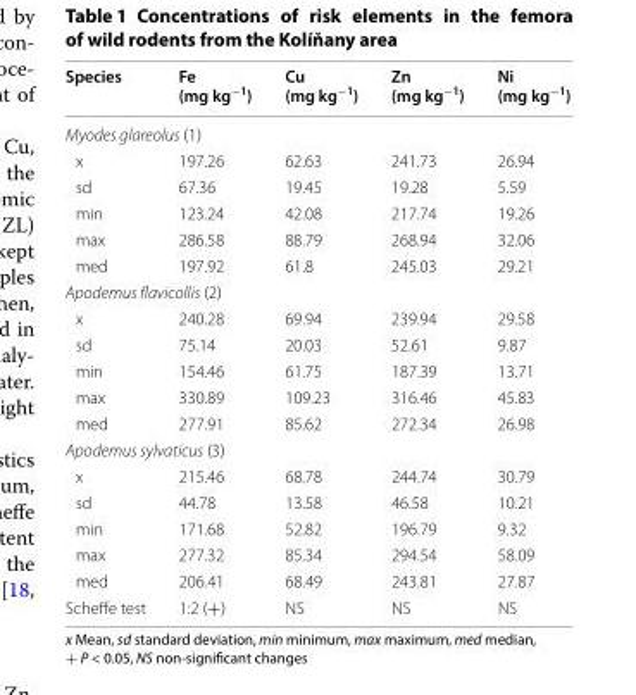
<table><thead><tr><td>Species</td><td>Fe (mg kg<sup>−1</sup>)</td><td>Cu (mg kg<sup>−1</sup>)</td><td>Zn (mg kg<sup>−1</sup>)</td><td>Ni (mg kg<sup>−1</sup>)</td></tr></thead><tbody><tr><td colspan="5">Myodes glareolus (1)</td></tr><tr><td>x</td><td>197.26</td><td>62.63</td><td>241.73</td><td>26.94</td></tr><tr><td>sd</td><td>67.36</td><td>19.45</td><td>19.28</td><td>5.59</td></tr><tr><td>min</td><td>123.24</td><td>42.08</td><td>217.74</td><td>19.26</td></tr><tr><td>max</td><td>286.58</td><td>88.79</td><td>268.94</td><td>32.06</td></tr><tr><td>med</td><td>197.92</td><td>61.8</td><td>245.03</td><td>29.21</td></tr><tr><td colspan="5">Apodemus flavicollis (2)</td></tr><tr><td>x</td><td>240.28</td><td>69.94</td><td>239.94</td><td>29.58</td></tr><tr><td>sd</td><td>75.14</td><td>20.03</td><td>52.61</td><td>9.87</td></tr><tr><td>min</td><td>154.46</td><td>61.75</td><td>187.39</td><td>13.71</td></tr><tr><td>max</td><td>330.89</td><td>109.23</td><td>316.46</td><td>45.83</td></tr><tr><td>med</td><td>277.91</td><td>85.62</td><td>272.34</td><td>26.98</td></tr><tr><td colspan="5">Apodemus sylvaticus (3)</td></tr><tr><td>x</td><td>215.46</td><td>68.78</td><td>244.74</td><td>30.79</td></tr><tr><td>sd</td><td>44.78</td><td>13.58</td><td>46.58</td><td>10.21</td></tr><tr><td>min</td><td>171.68</td><td>52.82</td><td>196.79</td><td>9.32</td></tr><tr><td>max</td><td>277.32</td><td>85.34</td><td>294.54</td><td>58.09</td></tr><tr><td>med</td><td>206.41</td><td>68.49</td><td>243.81</td><td>27.87</td></tr><tr><td>Scheffe test</td><td>1:2 (+)</td><td>NS</td><td>NS</td><td>NS</td></tr></tbody></table>